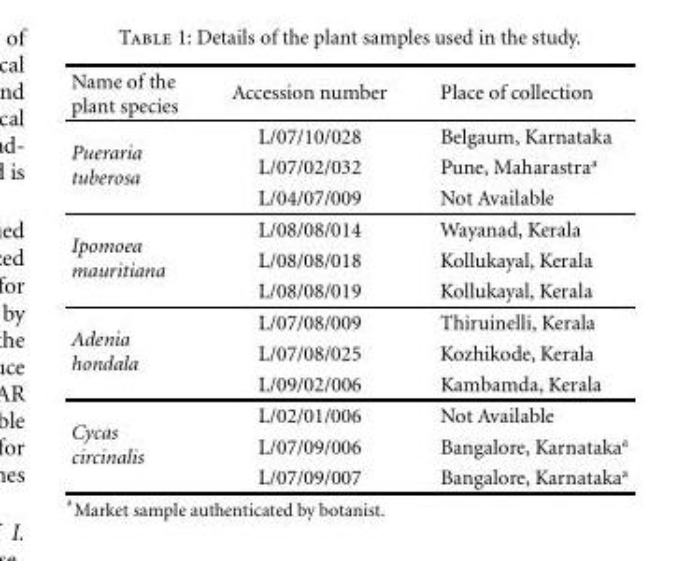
<table><thead><tr><td>Name of the plant species</td><td>Accession number</td><td>Place of collection</td></tr></thead><tbody><tr><td rowspan="3">Pueraria tuberosa</td><td>L/07/10/028</td><td>Belgaum, Karnataka</td></tr><tr><td>L/07/02/032</td><td>Pune, Maharastra<sup>a</sup></td></tr><tr><td>L/04/07/009</td><td>Not Available</td></tr><tr><td rowspan="3">Ipomoea mauritiana</td><td>L/08/08/014</td><td>Wayanad, Kerala</td></tr><tr><td>L/08/08/018</td><td>Kollukayal, Kerala</td></tr><tr><td>L/08/08/019</td><td>Kollukayal, Kerala</td></tr><tr><td rowspan="3">Adenia hondala</td><td>L/07/08/009</td><td>Thiruinelli, Kerala</td></tr><tr><td>L/07/08/025</td><td>Kozhikode, Kerala</td></tr><tr><td>L/09/02/006</td><td>Kambamda, Kerala</td></tr><tr><td rowspan="3">Cycas circinalis</td><td>L/02/01/006</td><td>Not Available</td></tr><tr><td>L/07/09/006</td><td>Bangalore, Karnataka<sup>a</sup></td></tr><tr><td>L/07/09/007</td><td>Bangalore, Karnataka<sup>a</sup></td></tr></tbody></table>